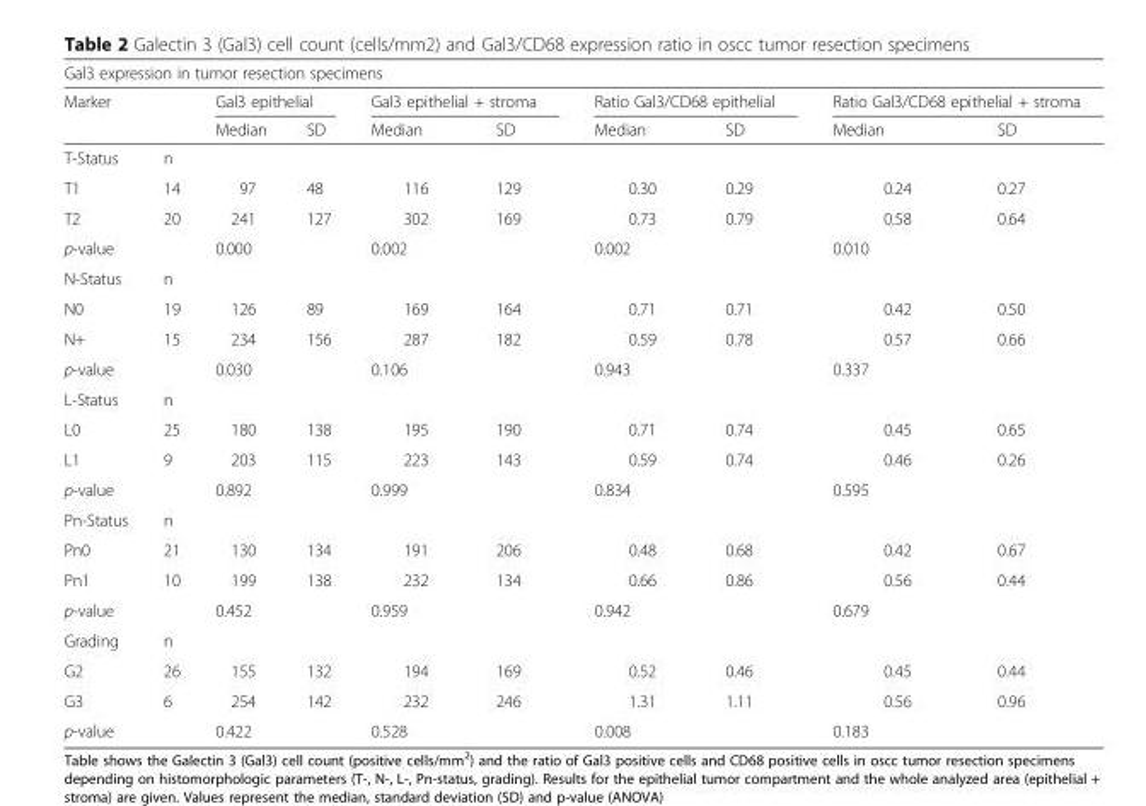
<table><thead><tr><td colspan="10">Gal3 expression in tumor resection specimens</td></tr><tr><td rowspan="2">Marker</td><td rowspan="2"></td><td colspan="2">Gal3 epithelial</td><td colspan="2">Gal3 epithelial + stroma</td><td colspan="2">Ratio Gal3/CD68 epithelial</td><td colspan="2">Ratio Gal3/CD68 epithelial + stroma</td></tr><tr><td>Median</td><td>SD</td><td>Median</td><td>SD</td><td>Median</td><td>SD</td><td>Median</td><td>SD</td></tr></thead><tbody><tr><td>T-Status</td><td>n</td><td></td><td></td><td></td><td></td><td></td><td></td><td></td><td></td></tr><tr><td>T1</td><td>14</td><td>97</td><td>48</td><td>116</td><td>129</td><td>0.30</td><td>0.29</td><td>0.24</td><td>0.27</td></tr><tr><td>T2</td><td>20</td><td>241</td><td>127</td><td>302</td><td>169</td><td>0.73</td><td>0.79</td><td>0.58</td><td>0.64</td></tr><tr><td colspan="2">p-value</td><td colspan="2">0.000</td><td colspan="2">0.002</td><td colspan="2">0.002</td><td colspan="2">0.010</td></tr><tr><td>N-Status</td><td>n</td><td></td><td></td><td></td><td></td><td></td><td></td><td></td><td></td></tr><tr><td>N0</td><td>19</td><td>126</td><td>89</td><td>169</td><td>164</td><td>0.71</td><td>0.71</td><td>0.42</td><td>0.50</td></tr><tr><td>N+</td><td>15</td><td>234</td><td>156</td><td>287</td><td>182</td><td>0.59</td><td>0.78</td><td>0.57</td><td>0.66</td></tr><tr><td colspan="2">p-value</td><td colspan="2">0.030</td><td colspan="2">0.106</td><td colspan="2">0.943</td><td colspan="2">0.337</td></tr><tr><td>L-Status</td><td>n</td><td></td><td></td><td></td><td></td><td></td><td></td><td></td><td></td></tr><tr><td>L0</td><td>25</td><td>180</td><td>138</td><td>195</td><td>190</td><td>0.71</td><td>0.74</td><td>0.45</td><td>0.65</td></tr><tr><td>L1</td><td>9</td><td>203</td><td>115</td><td>223</td><td>143</td><td>0.59</td><td>0.74</td><td>0.46</td><td>0.26</td></tr><tr><td colspan="2">p-value</td><td colspan="2">0.892</td><td colspan="2">0.999</td><td colspan="2">0.834</td><td colspan="2">0.595</td></tr><tr><td>Pn-Status</td><td>n</td><td></td><td></td><td></td><td></td><td></td><td></td><td></td><td></td></tr><tr><td>Pn0</td><td>21</td><td>130</td><td>134</td><td>191</td><td>206</td><td>0.48</td><td>0.68</td><td>0.42</td><td>0.67</td></tr><tr><td>Pn1</td><td>10</td><td>199</td><td>138</td><td>232</td><td>134</td><td>0.66</td><td>0.86</td><td>0.56</td><td>0.44</td></tr><tr><td colspan="2">p-value</td><td colspan="2">0.452</td><td colspan="2">0.959</td><td colspan="2">0.942</td><td colspan="2">0.679</td></tr><tr><td>Grading</td><td>n</td><td></td><td></td><td></td><td></td><td></td><td></td><td></td><td></td></tr><tr><td>G2</td><td>26</td><td>155</td><td>132</td><td>194</td><td>169</td><td>0.52</td><td>0.46</td><td>0.45</td><td>0.44</td></tr><tr><td>G3</td><td>6</td><td>254</td><td>142</td><td>232</td><td>246</td><td>1.31</td><td>1.11</td><td>0.56</td><td>0.96</td></tr><tr><td colspan="2">p-value</td><td colspan="2">0.422</td><td colspan="2">0.528</td><td colspan="2">0.008</td><td colspan="2">0.183</td></tr></tbody></table>